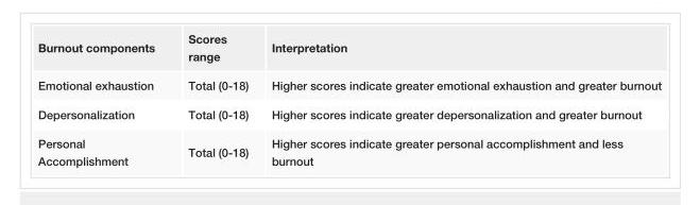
<table><tbody><tr><td>Burnout components</td><td>Scores range</td><td>Interpretation</td></tr><tr><td>Emotional exhaustion</td><td>Total (0-18)</td><td>Higher scores indicate greater emotional exhaustion and greater burnout</td></tr><tr><td>Depersonalization</td><td>Total (0-18)</td><td>Higher scores indicate greater depersonalization and greater burnout</td></tr><tr><td>Personal Accomplishment</td><td>Total (0-18)</td><td>Higher scores indicate greater personal accomplishment and less burnout</td></tr></tbody></table>